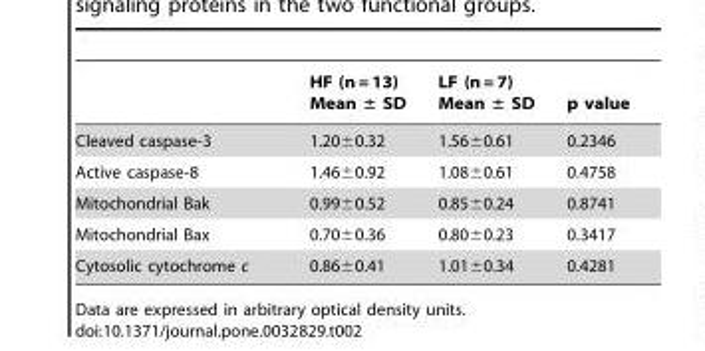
<table><thead><tr><td></td><td>HF (n = 13) Mean ± SD</td><td>LF (n = 7) Mean ± SD</td><td>p value</td></tr></thead><tbody><tr><td>Cleaved caspase-3</td><td>1.20±0.32</td><td>1.56±0.61</td><td>0.2346</td></tr><tr><td>Active caspase-8</td><td>1.46±0.92</td><td>1.08±0.61</td><td>0.4758</td></tr><tr><td>Mitochondrial Bak</td><td>0.99±0.52</td><td>0.85±0.24</td><td>0.8741</td></tr><tr><td>Mitochondrial Bax</td><td>0.70±0.36</td><td>0.80±0.23</td><td>0.3417</td></tr><tr><td>Cytosolic cytochrome c</td><td>0.86±0.41</td><td>1.01±0.34</td><td>0.4281</td></tr></tbody></table>